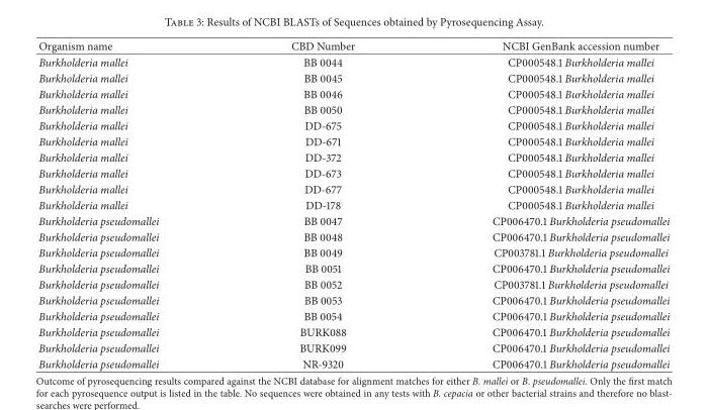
<table><thead><tr><td>Organism name</td><td>CBD Number</td><td>NCBI GenBank accession number</td></tr></thead><tbody><tr><td>Burkholderia mallei</td><td>BB 0044</td><td>CP000548.1 Burkholderia mallei</td></tr><tr><td>Burkholderia mallei</td><td>BB 0045</td><td>CP000548.1 Burkholderia mallei</td></tr><tr><td>Burkholderia mallei</td><td>BB 0046</td><td>CP000548.1 Burkholderia mallei</td></tr><tr><td>Burkholderia mallei</td><td>BB 0050</td><td>CP000548.1 Burkholderia mallei</td></tr><tr><td>Burkholderia mallei</td><td>DD-675</td><td>CP000548.1 Burkholderia mallei</td></tr><tr><td>Burkholderia mallei</td><td>DD-671</td><td>CP000548.1 Burkholderia mallei</td></tr><tr><td>Burkholderia mallei</td><td>DD-372</td><td>CP000548.1 Burkholderia mallei</td></tr><tr><td>Burkholderia mallei</td><td>DD-673</td><td>CP000548.1 Burkholderia mallei</td></tr><tr><td>Burkholderia mallei</td><td>DD-677</td><td>CP000548.1 Burkholderia mallei</td></tr><tr><td>Burkholderia mallei</td><td>DD-178</td><td>CP000548.1 Burkholderia mallei</td></tr><tr><td>Burkholderia pseudomallei</td><td>BB 0047</td><td>CP006470.1 Burkholderia pseudomallei</td></tr><tr><td>Burkholderia pseudomallei</td><td>BB 0048</td><td>CP006470.1 Burkholderia pseudomallei</td></tr><tr><td>Burkholderia pseudomallei</td><td>BB 0049</td><td>CP003781.1 Burkholderia pseudomallei</td></tr><tr><td>Burkholderia pseudomallei</td><td>BB 0051</td><td>CP006470.1 Burkholderia pseudomallei</td></tr><tr><td>Burkholderia pseudomallei</td><td>BB 0052</td><td>CP003781.1 Burkholderia pseudomallei</td></tr><tr><td>Burkholderia pseudomallei</td><td>BB 0053</td><td>CP006470.1 Burkholderia pseudomallei</td></tr><tr><td>Burkholderia pseudomallei</td><td>BB 0054</td><td>CP006470.1 Burkholderia pseudomallei</td></tr><tr><td>Burkholderia pseudomallei</td><td>BURK088</td><td>CP006470.1 Burkholderia pseudomallei</td></tr><tr><td>Burkholderia pseudomallei</td><td>BURK099</td><td>CP006470.1 Burkholderia pseudomallei</td></tr><tr><td>Burkholderia pseudomallei</td><td>NR-9320</td><td>CP006470.1 Burkholderia pseudomallei</td></tr></tbody></table>